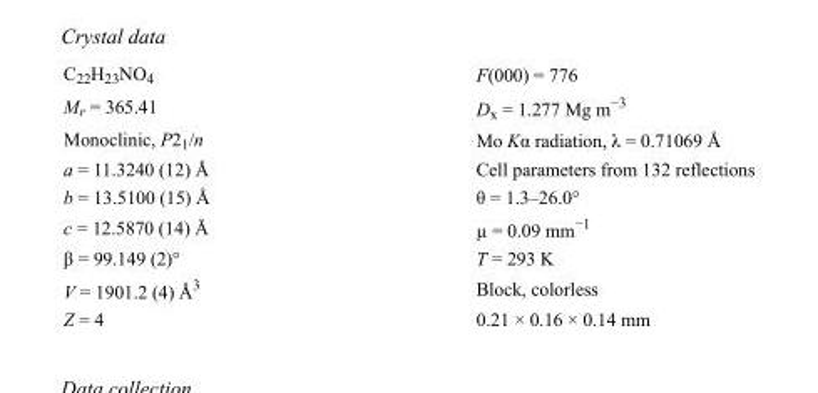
<table><tbody><tr><td>C<sub>22</sub>H<sub>23</sub>NO<sub>4</sub></td><td>F(000) = 776</td></tr><tr><td>M<sub>r</sub> = 365.41</td><td>D<sub>x</sub> = 1.277 Mg m<sup>−3</sup></td></tr><tr><td>Monoclinic, P2<sub>1</sub>/n</td><td>Mo Kα radiation, λ = 0.71069 Å</td></tr><tr><td>a = 11.3240 (12) Å</td><td>Cell parameters from 132 reflections</td></tr><tr><td>b = 13.5100 (15) Å</td><td>θ = 1.3–26.0°</td></tr><tr><td>c = 12.5870 (14) Å</td><td>µ = 0.09 mm<sup>−1</sup></td></tr><tr><td>β = 99.149 (2)°</td><td>T = 293 K</td></tr><tr><td>V = 1901.2 (4) Å<sup>3</sup></td><td>Block, colorless</td></tr><tr><td>Z = 4</td><td>0.21 × 0.16 × 0.14 mm</td></tr></tbody></table>